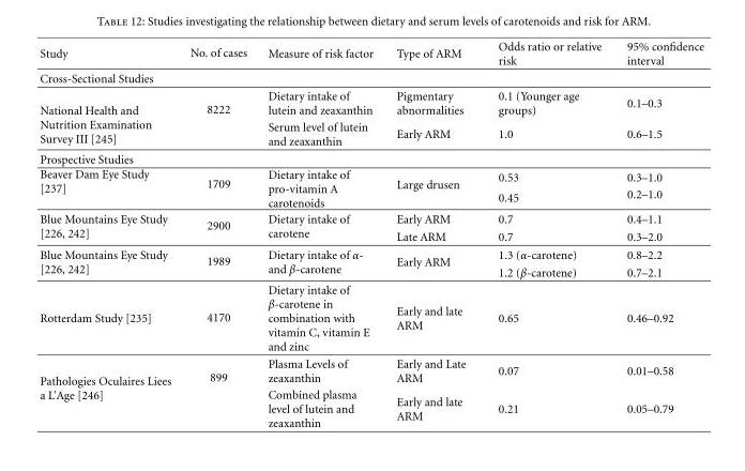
<table><thead><tr><td>Study</td><td>No. of cases</td><td>Measure of risk factor</td><td>Type of ARM</td><td>Odds ratio or relative risk</td><td>95% confidence interval</td></tr></thead><tbody><tr><td colspan="6">Cross-Sectional Studies</td></tr><tr><td rowspan="2">National Health and Nutrition Examination Survey III [245]</td><td rowspan="2">8222</td><td>Dietary intake of lutein and zeaxanthin</td><td>Pigmentary abnormalities</td><td>0.1 (Younger age groups)</td><td>0.1–0.3</td></tr><tr><td>Serum level of lutein and zeaxanthin</td><td>Early ARM</td><td>1.0</td><td>0.6–1.5</td></tr><tr><td colspan="6">Prospective Studies</td></tr><tr><td rowspan="2">Beaver Dam Eye Study [237]</td><td rowspan="2">1709</td><td rowspan="2">Dietary intake of pro-vitamin A carotenoids</td><td rowspan="2">Large drusen</td><td>0.53</td><td>0.3–1.0</td></tr><tr><td>0.45</td><td>0.2–1.0</td></tr><tr><td rowspan="2">Blue Mountains Eye Study [226, 242]</td><td rowspan="2">2900</td><td rowspan="2">Dietary intake of carotene</td><td>Early ARM</td><td>0.7</td><td>0.4–1.1</td></tr><tr><td>Late ARM</td><td>0.7</td><td>0.3–2.0</td></tr><tr><td rowspan="2">Blue Mountains Eye Study [226, 242]</td><td rowspan="2">1989</td><td rowspan="2">Dietary intake of α- and β-carotene</td><td rowspan="2">Early ARM</td><td>1.3 (α-carotene)</td><td>0.8–2.2</td></tr><tr><td>1.2 (β-carotene)</td><td>0.7–2.1</td></tr><tr><td>Rotterdam Study [235]</td><td>4170</td><td>Dietary intake of β-carotene in combination with vitamin C, vitamin E and zinc</td><td>Early and late ARM</td><td>0.65</td><td>0.46–0.92</td></tr><tr><td rowspan="2">Pathologies Oculaires Liees a L’Age [246]</td><td rowspan="2">899</td><td>Plasma Levels of zeaxanthin</td><td>Early and Late ARM</td><td>0.07</td><td>0.01–0.58</td></tr><tr><td>Combined plasma level of lutein and zeaxanthin</td><td>Early and late ARM</td><td>0.21</td><td>0.05–0.79</td></tr></tbody></table>